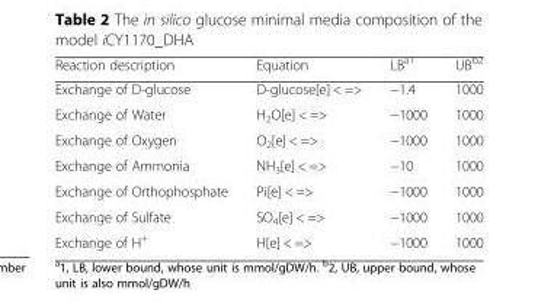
<table><thead><tr><td>Reaction description</td><td>Equation</td><td>LB<sup>a1</sup></td><td>UB<sup>b2</sup></td></tr></thead><tbody><tr><td>Exchange of D-glucose</td><td>D-glucose[e] &lt; =&gt;</td><td>−1.4</td><td>1000</td></tr><tr><td>Exchange of Water</td><td>H<sub>2</sub>O[e] &lt; =&gt;</td><td>−1000</td><td>1000</td></tr><tr><td>Exchange of Oxygen</td><td>O<sub>2</sub>[e] &lt; =&gt;</td><td>−1000</td><td>1000</td></tr><tr><td>Exchange of Ammonia</td><td>NH<sub>3</sub>[e] &lt; =&gt;</td><td>−10</td><td>1000</td></tr><tr><td>Exchange of Orthophosphate</td><td>Pi[e] &lt; =&gt;</td><td>−1000</td><td>1000</td></tr><tr><td>Exchange of Sulfate</td><td>SO<sub>4</sub>[e] &lt; =&gt;</td><td>−1000</td><td>1000</td></tr><tr><td>Exchange of H<sup>+</sup></td><td>H[e] &lt; =&gt;</td><td>−1000</td><td>1000</td></tr></tbody></table>